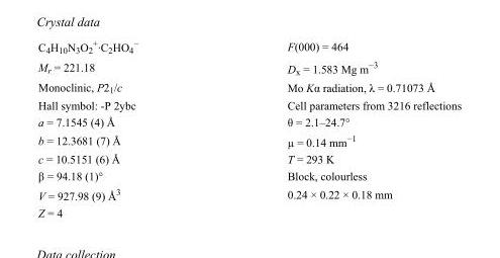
<table><tbody><tr><td>C<sub>4</sub>H<sub>10</sub>N<sub>3</sub>O<sub>2</sub> <sup>+</sup>·C<sub>2</sub>HO<sub>4</sub> <sup>−</sup></td><td>F(000) = 464</td></tr><tr><td>M<sub>r</sub> = 221.18</td><td>D<sub>x</sub> = 1.583 Mg m<sup>−3</sup></td></tr><tr><td>Monoclinic, P2<sub>1</sub>/c</td><td>Mo Kα radiation, λ = 0.71073 Å</td></tr><tr><td>Hall symbol: -P 2ybc</td><td>Cell parameters from 3216 reflections</td></tr><tr><td>a = 7.1545 (4) Å</td><td>θ = 2.1–24.7°</td></tr><tr><td>b = 12.3681 (7) Å</td><td>µ = 0.14 mm<sup>−1</sup></td></tr><tr><td>c = 10.5151 (6) Å</td><td>T = 293 K</td></tr><tr><td>β = 94.18 (1)°</td><td>Block, colourless</td></tr><tr><td>V = 927.98 (9) Å<sup>3</sup></td><td>0.24 × 0.22 × 0.18 mm</td></tr><tr><td>Z = 4</td><td></td></tr></tbody></table>